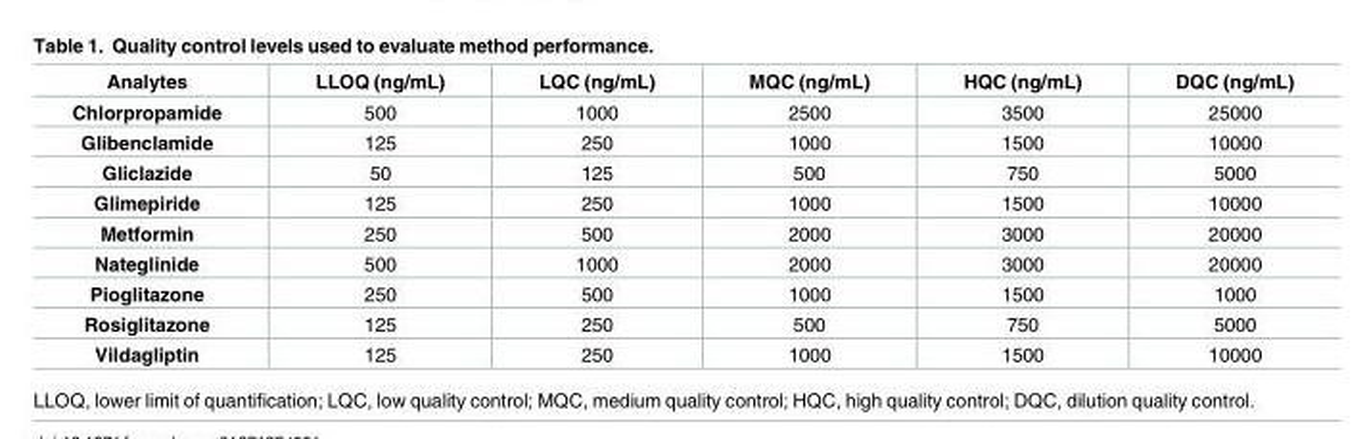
<table><thead><tr><td>Analytes</td><td>LLOQ (ng/mL)</td><td>LQC (ng/mL)</td><td>MQC (ng/mL)</td><td>HQC (ng/mL)</td><td>DQC (ng/mL)</td></tr></thead><tbody><tr><td>Chlorpropamide</td><td>500</td><td>1000</td><td>2500</td><td>3500</td><td>25000</td></tr><tr><td>Glibenclamide</td><td>125</td><td>250</td><td>1000</td><td>1500</td><td>10000</td></tr><tr><td>Gliclazide</td><td>50</td><td>125</td><td>500</td><td>750</td><td>5000</td></tr><tr><td>Glimepiride</td><td>125</td><td>250</td><td>1000</td><td>1500</td><td>10000</td></tr><tr><td>Metformin</td><td>250</td><td>500</td><td>2000</td><td>3000</td><td>20000</td></tr><tr><td>Nateglinide</td><td>500</td><td>1000</td><td>2000</td><td>3000</td><td>20000</td></tr><tr><td>Pioglitazone</td><td>250</td><td>500</td><td>1000</td><td>1500</td><td>1000</td></tr><tr><td>Rosiglitazone</td><td>125</td><td>250</td><td>500</td><td>750</td><td>5000</td></tr><tr><td>Vildagliptin</td><td>125</td><td>250</td><td>1000</td><td>1500</td><td>10000</td></tr></tbody></table>